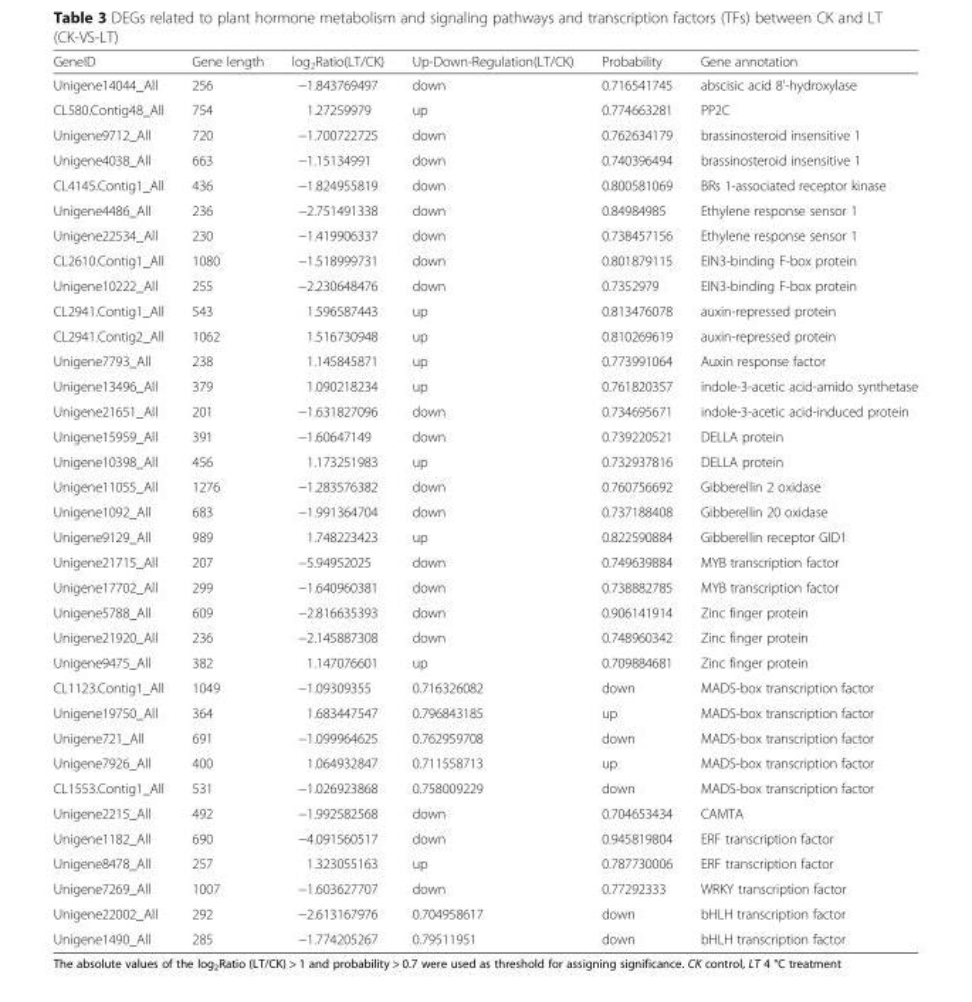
<table><thead><tr><td>GeneID</td><td>Gene length</td><td>log<sub>2</sub>Ratio(LT/CK)</td><td>Up-Down-Regulation(LT/CK)</td><td>Probability</td><td>Gene annotation</td></tr></thead><tbody><tr><td>Unigene14044_All</td><td>256</td><td>−1.843769497</td><td>down</td><td>0.716541745</td><td>abscisic acid 8&#x27;-hydroxylase</td></tr><tr><td>CL580.Contig48_All</td><td>754</td><td>1.27259979</td><td>up</td><td>0.774663281</td><td>PP2C</td></tr><tr><td>Unigene9712_All</td><td>720</td><td>−1.700722725</td><td>down</td><td>0.762634179</td><td>brassinosteroid insensitive 1</td></tr><tr><td>Unigene4038_All</td><td>663</td><td>−1.15134991</td><td>down</td><td>0.740396494</td><td>brassinosteroid insensitive 1</td></tr><tr><td>CL4145.Contig1_All</td><td>436</td><td>−1.824955819</td><td>down</td><td>0.800581069</td><td>BRs 1-associated receptor kinase</td></tr><tr><td>Unigene4486_All</td><td>236</td><td>−2.751491338</td><td>down</td><td>0.84984985</td><td>Ethylene response sensor 1</td></tr><tr><td>Unigene22534_All</td><td>230</td><td>−1.419906337</td><td>down</td><td>0.738457156</td><td>Ethylene response sensor 1</td></tr><tr><td>CL2610.Contig1_All</td><td>1080</td><td>−1.518999731</td><td>down</td><td>0.801879115</td><td>EIN3-binding F-box protein</td></tr><tr><td>Unigene10222_All</td><td>255</td><td>−2.230648476</td><td>down</td><td>0.7352979</td><td>EIN3-binding F-box protein</td></tr><tr><td>CL2941.Contig1_All</td><td>543</td><td>1.596587443</td><td>up</td><td>0.813476078</td><td>auxin-repressed protein</td></tr><tr><td>CL2941.Contig2_All</td><td>1062</td><td>1.516730948</td><td>up</td><td>0.810269619</td><td>auxin-repressed protein</td></tr><tr><td>Unigene7793_All</td><td>238</td><td>1.145845871</td><td>up</td><td>0.773991064</td><td>Auxin response factor</td></tr><tr><td>Unigene13496_All</td><td>379</td><td>1.090218234</td><td>up</td><td>0.761820357</td><td>indole-3-acetic acid-amido synthetase</td></tr><tr><td>Unigene21651_All</td><td>201</td><td>−1.631827096</td><td>down</td><td>0.734695671</td><td>indole-3-acetic acid-induced protein</td></tr><tr><td>Unigene15959_All</td><td>391</td><td>−1.60647149</td><td>down</td><td>0.739220521</td><td>DELLA protein</td></tr><tr><td>Unigene10398_All</td><td>456</td><td>1.173251983</td><td>up</td><td>0.732937816</td><td>DELLA protein</td></tr><tr><td>Unigene11055_All</td><td>1276</td><td>−1.283576382</td><td>down</td><td>0.760756692</td><td>Gibberellin 2 oxidase</td></tr><tr><td>Unigene1092_All</td><td>683</td><td>−1.991364704</td><td>down</td><td>0.737188408</td><td>Gibberellin 20 oxidase</td></tr><tr><td>Unigene9129_All</td><td>989</td><td>1.748223423</td><td>up</td><td>0.822590884</td><td>Gibberellin receptor GID1</td></tr><tr><td>Unigene21715_All</td><td>207</td><td>−5.94952025</td><td>down</td><td>0.749639884</td><td>MYB transcription factor</td></tr><tr><td>Unigene17702_All</td><td>299</td><td>−1.640960381</td><td>down</td><td>0.738882785</td><td>MYB transcription factor</td></tr><tr><td>Unigene5788_All</td><td>609</td><td>−2.816635393</td><td>down</td><td>0.906141914</td><td>Zinc finger protein</td></tr><tr><td>Unigene21920_All</td><td>236</td><td>−2.145887308</td><td>down</td><td>0.748960342</td><td>Zinc finger protein</td></tr><tr><td>Unigene9475_All</td><td>382</td><td>1.147076601</td><td>up</td><td>0.709884681</td><td>Zinc finger protein</td></tr><tr><td>CL1123.Contig1_All</td><td>1049</td><td>−1.09309355</td><td>0.716326082</td><td>down</td><td>MADS-box transcription factor</td></tr><tr><td>Unigene19750_All</td><td>364</td><td>1.683447547</td><td>0.796843185</td><td>up</td><td>MADS-box transcription factor</td></tr><tr><td>Unigene721_All</td><td>691</td><td>−1.099964625</td><td>0.762959708</td><td>down</td><td>MADS-box transcription factor</td></tr><tr><td>Unigene7926_All</td><td>400</td><td>1.064932847</td><td>0.711558713</td><td>up</td><td>MADS-box transcription factor</td></tr><tr><td>CL1553.Contig1_All</td><td>531</td><td>−1.026923868</td><td>0.758009229</td><td>down</td><td>MADS-box transcription factor</td></tr><tr><td>Unigene2215_All</td><td>492</td><td>−1.992582568</td><td>down</td><td>0.704653434</td><td>CAMTA</td></tr><tr><td>Unigene1182_All</td><td>690</td><td>−4.091560517</td><td>down</td><td>0.945819804</td><td>ERF transcription factor</td></tr><tr><td>Unigene8478_All</td><td>257</td><td>1.323055163</td><td>up</td><td>0.787730006</td><td>ERF transcription factor</td></tr><tr><td>Unigene7269_All</td><td>1007</td><td>−1.603627707</td><td>down</td><td>0.77292333</td><td>WRKY transcription factor</td></tr><tr><td>Unigene22002_All</td><td>292</td><td>−2.613167976</td><td>0.704958617</td><td>down</td><td>bHLH transcription factor</td></tr><tr><td>Unigene1490_All</td><td>285</td><td>−1.774205267</td><td>0.79511951</td><td>down</td><td>bHLH transcription factor</td></tr></tbody></table>